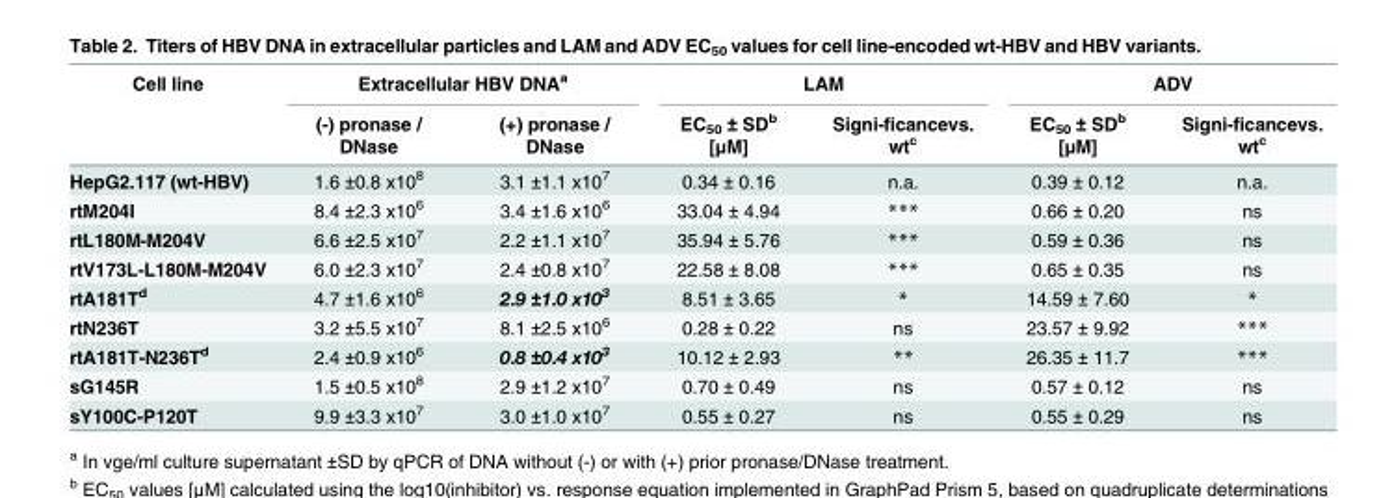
<table><thead><tr><td rowspan="2">Cell line</td><td colspan="2">Extracellular HBV DNA<sup>a</sup></td><td colspan="2">LAM</td><td colspan="2">ADV</td></tr><tr><td>(-) pronase / DNase</td><td>(+) pronase / DNase</td><td>EC<sub>50</sub> ± SD<sup>b</sup> [μM]</td><td>Signi-ficancevs. wt<sup>c</sup></td><td>EC<sub>50</sub> ± SD<sup>b</sup> [μM]</td><td>Signi-ficancevs. wt<sup>c</sup></td></tr></thead><tbody><tr><td>HepG2.117 (wt-HBV)</td><td>1.6 ±0.8 x10<sup>8</sup></td><td>3.1 ±1.1 x10<sup>7</sup></td><td>0.34 ± 0.16</td><td>n.a.</td><td>0.39 ± 0.12</td><td>n.a.</td></tr><tr><td>rtM204I</td><td>8.4 ±2.3 x10<sup>6</sup></td><td>3.4 ±1.6 x10<sup>6</sup></td><td>33.04 ± 4.94</td><td>***</td><td>0.66 ± 0.20</td><td>ns</td></tr><tr><td>rtL180M-M204V</td><td>6.6 ±2.5 x10<sup>7</sup></td><td>2.2 ±1.1 x10<sup>7</sup></td><td>35.94 ± 5.76</td><td>***</td><td>0.59 ± 0.36</td><td>ns</td></tr><tr><td>rtV173L-L180M-M204V</td><td>6.0 ±2.3 x10<sup>7</sup></td><td>2.4 ±0.8 x10<sup>7</sup></td><td>22.58 ± 8.08</td><td>***</td><td>0.65 ± 0.35</td><td>ns</td></tr><tr><td>rtA181T<sup>d</sup></td><td>4.7 ±1.6 x10<sup>6</sup></td><td>2.9 ±1.0 x10<sup>3</sup></td><td>8.51 ± 3.65</td><td>*</td><td>14.59 ± 7.60</td><td>*</td></tr><tr><td>rtN236T</td><td>3.2 ±5.5 x10<sup>7</sup></td><td>8.1 ±2.5 x10<sup>6</sup></td><td>0.28 ± 0.22</td><td>ns</td><td>23.57 ± 9.92</td><td>***</td></tr><tr><td>rtA181T-N236T<sup>d</sup></td><td>2.4 ±0.9 x10<sup>6</sup></td><td>0.8 ±0.4 x10<sup>3</sup></td><td>10.12 ± 2.93</td><td>**</td><td>26.35 ± 11.7</td><td>***</td></tr><tr><td>sG145R</td><td>1.5 ±0.5 x10<sup>8</sup></td><td>2.9 ±1.2 x10<sup>7</sup></td><td>0.70 ± 0.49</td><td>ns</td><td>0.57 ± 0.12</td><td>ns</td></tr><tr><td>sY100C-P120T</td><td>9.9 ±3.3 x10<sup>7</sup></td><td>3.0 ±1.0 x10<sup>7</sup></td><td>0.55 ± 0.27</td><td>ns</td><td>0.55 ± 0.29</td><td>ns</td></tr></tbody></table>